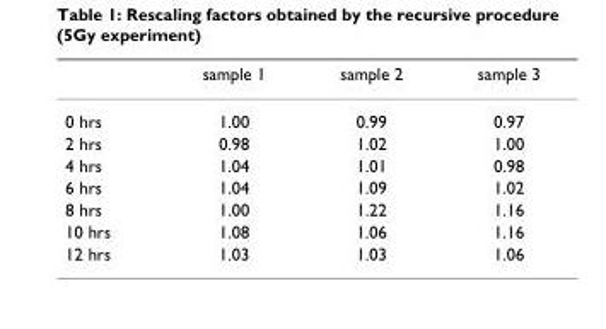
<table><thead><tr><td></td><td>sample 1</td><td>sample 2</td><td>sample 3</td></tr></thead><tbody><tr><td>0 hrs</td><td>1.00</td><td>0.99</td><td>0.97</td></tr><tr><td>2 hrs</td><td>0.98</td><td>1.02</td><td>1.00</td></tr><tr><td>4 hrs</td><td>1.04</td><td>1.01</td><td>0.98</td></tr><tr><td>6 hrs</td><td>1.04</td><td>1.09</td><td>1.02</td></tr><tr><td>8 hrs</td><td>1.00</td><td>1.22</td><td>1.16</td></tr><tr><td>10 hrs</td><td>1.08</td><td>1.06</td><td>1.16</td></tr><tr><td>12 hrs</td><td>1.03</td><td>1.03</td><td>1.06</td></tr></tbody></table>